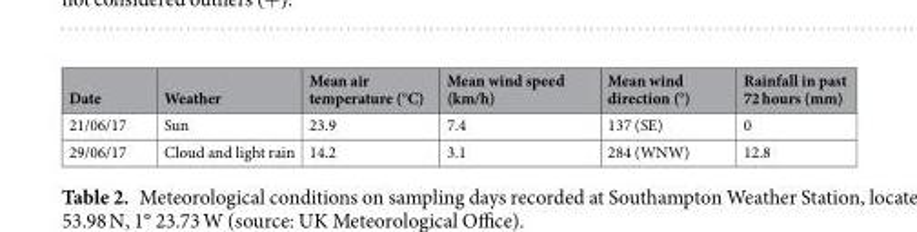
<table><thead><tr><td>Date</td><td>Weather</td><td>Mean air temperature (°C)</td><td>Mean wind speed (km/h)</td><td>Mean wind direction (°)</td><td>Rainfall in past 72 hours (mm)</td></tr></thead><tbody><tr><td>21/06/17</td><td>Sun</td><td>23.9</td><td>7.4</td><td>137 (SE)</td><td>0</td></tr><tr><td>29/06/17</td><td>Cloud and light rain</td><td>14.2</td><td>3.1</td><td>284 (WNW)</td><td>12.8</td></tr></tbody></table>